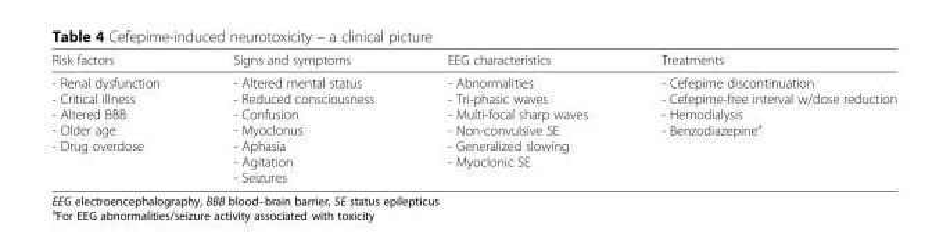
<table><thead><tr><td>Risk factors</td><td>Signs and symptoms</td><td>EEG characteristics</td><td>Treatments</td></tr></thead><tbody><tr><td>- Renal dysfunction - Critical illness - Altered BBB - Older age - Drug overdose</td><td>- Altered mental status - Reduced consciousness - Confusion - Myoclonus - Aphasia - Agitation - Seizures</td><td>- Abnormalities - Tri-phasic waves - Multi-focal sharp waves - Non-convulsive SE - Generalized slowing - Myoclonic SE</td><td>- Cefepime discontinuation - Cefepime-free interval w/dose reduction - Hemodialysis - Benzodiazepine<sup>a</sup></td></tr></tbody></table>